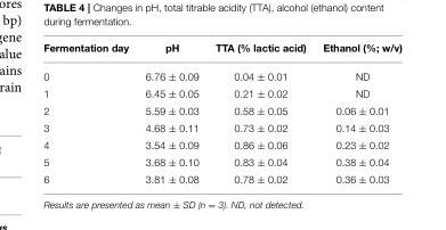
<table><thead><tr><td>Fermentation day</td><td>pH</td><td>TTA (% lactic acid)</td><td>Ethanol (%; w/v)</td></tr></thead><tbody><tr><td>0</td><td>6.76 ± 0.09</td><td>0.04 ± 0.01</td><td>ND</td></tr><tr><td>1</td><td>6.45 ± 0.05</td><td>0.21 ± 0.02</td><td>ND</td></tr><tr><td>2</td><td>5.59 ± 0.03</td><td>0.58 ± 0.05</td><td>0.06 ± 0.01</td></tr><tr><td>3</td><td>4.68 ± 0.11</td><td>0.73 ± 0.02</td><td>0.14 ± 0.03</td></tr><tr><td>4</td><td>3.54 ± 0.09</td><td>0.86 ± 0.06</td><td>0.23 ± 0.02</td></tr><tr><td>5</td><td>3.68 ± 0.10</td><td>0.83 ± 0.04</td><td>0.38 ± 0.04</td></tr><tr><td>6</td><td>3.81 ± 0.08</td><td>0.78 ± 0.02</td><td>0.36 ± 0.03</td></tr></tbody></table>